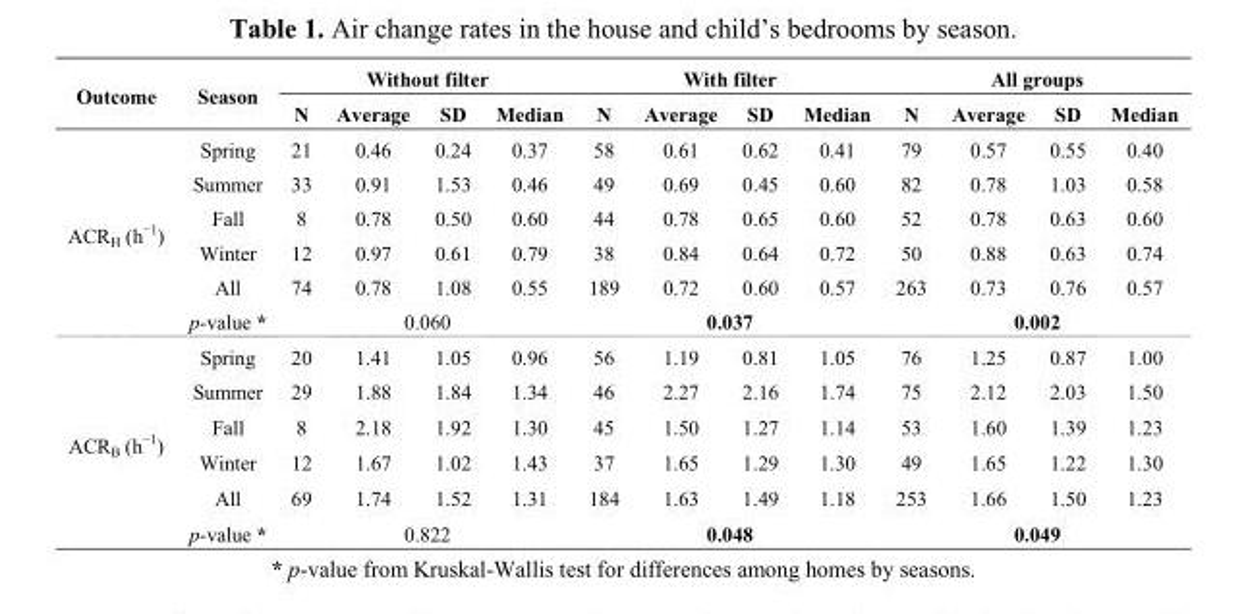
<table><thead><tr><td rowspan="2">Outcome</td><td rowspan="2">Season</td><td colspan="4">Without filter</td><td colspan="4">With filter</td><td colspan="4">All groups</td></tr><tr><td>N</td><td>Average</td><td>SD</td><td>Median</td><td>N</td><td>Average</td><td>SD</td><td>Median</td><td>N</td><td>Average</td><td>SD</td><td>Median</td></tr></thead><tbody><tr><td rowspan="6">ACR<sub>H</sub> (h<sup>−1</sup>)</td><td>Spring</td><td>21</td><td>0.46</td><td>0.24</td><td>0.37</td><td>58</td><td>0.61</td><td>0.62</td><td>0.41</td><td>79</td><td>0.57</td><td>0.55</td><td>0.40</td></tr><tr><td>Summer</td><td>33</td><td>0.91</td><td>1.53</td><td>0.46</td><td>49</td><td>0.69</td><td>0.45</td><td>0.60</td><td>82</td><td>0.78</td><td>1.03</td><td>0.58</td></tr><tr><td>Fall</td><td>8</td><td>0.78</td><td>0.50</td><td>0.60</td><td>44</td><td>0.78</td><td>0.65</td><td>0.60</td><td>52</td><td>0.78</td><td>0.63</td><td>0.60</td></tr><tr><td>Winter</td><td>12</td><td>0.97</td><td>0.61</td><td>0.79</td><td>38</td><td>0.84</td><td>0.64</td><td>0.72</td><td>50</td><td>0.88</td><td>0.63</td><td>0.74</td></tr><tr><td>All</td><td>74</td><td>0.78</td><td>1.08</td><td>0.55</td><td>189</td><td>0.72</td><td>0.60</td><td>0.57</td><td>263</td><td>0.73</td><td>0.76</td><td>0.57</td></tr><tr><td>p-value *</td><td colspan="4">0.060</td><td colspan="4">0.037</td><td colspan="4">0.002</td></tr><tr><td rowspan="6">ACR<sub>B</sub> (h<sup>−1</sup>)</td><td>Spring</td><td>20</td><td>1.41</td><td>1.05</td><td>0.96</td><td>56</td><td>1.19</td><td>0.81</td><td>1.05</td><td>76</td><td>1.25</td><td>0.87</td><td>1.00</td></tr><tr><td>Summer</td><td>29</td><td>1.88</td><td>1.84</td><td>1.34</td><td>46</td><td>2.27</td><td>2.16</td><td>1.74</td><td>75</td><td>2.12</td><td>2.03</td><td>1.50</td></tr><tr><td>Fall</td><td>8</td><td>2.18</td><td>1.92</td><td>1.30</td><td>45</td><td>1.50</td><td>1.27</td><td>1.14</td><td>53</td><td>1.60</td><td>1.39</td><td>1.23</td></tr><tr><td>Winter</td><td>12</td><td>1.67</td><td>1.02</td><td>1.43</td><td>37</td><td>1.65</td><td>1.29</td><td>1.30</td><td>49</td><td>1.65</td><td>1.22</td><td>1.30</td></tr><tr><td>All</td><td>69</td><td>1.74</td><td>1.52</td><td>1.31</td><td>184</td><td>1.63</td><td>1.49</td><td>1.18</td><td>253</td><td>1.66</td><td>1.50</td><td>1.23</td></tr><tr><td>p-value *</td><td colspan="4">0.822</td><td colspan="4">0.048</td><td colspan="4">0.049</td></tr></tbody></table>